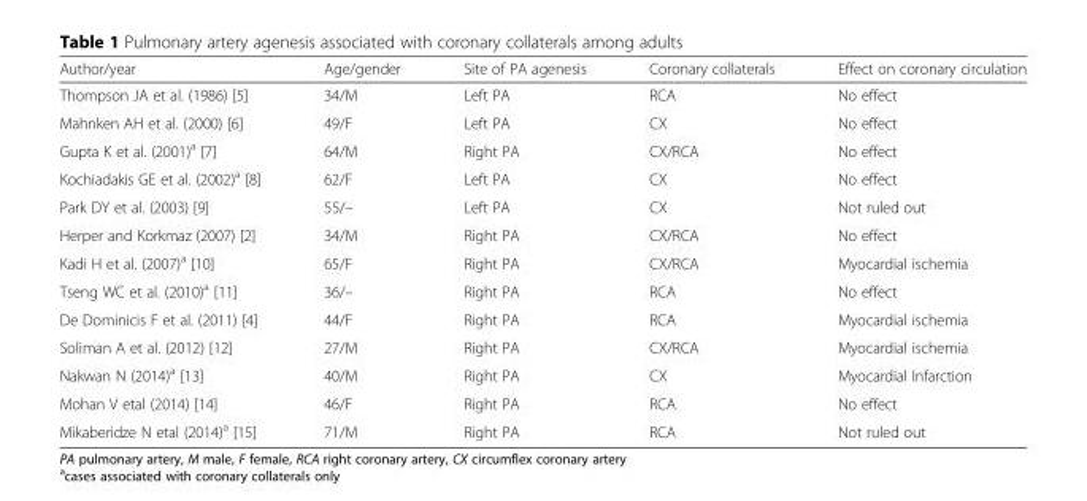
<table><thead><tr><td>Author/year</td><td>Age/gender</td><td>Site of PA agenesis</td><td>Coronary collaterals</td><td>Effect on coronary circulation</td></tr></thead><tbody><tr><td>Thompson JA et al. (1986) [5]</td><td>34/M</td><td>Left PA</td><td>RCA</td><td>No effect</td></tr><tr><td>Mahnken AH et al. (2000) [6]</td><td>49/F</td><td>Left PA</td><td>CX</td><td>No effect</td></tr><tr><td>Gupta K et al. (2001)<sup>a</sup> [7]</td><td>64/M</td><td>Right PA</td><td>CX/RCA</td><td>No effect</td></tr><tr><td>Kochiadakis GE et al. (2002)<sup>a</sup> [8]</td><td>62/F</td><td>Left PA</td><td>CX</td><td>No effect</td></tr><tr><td>Park DY et al. (2003) [9]</td><td>55/–</td><td>Left PA</td><td>CX</td><td>Not ruled out</td></tr><tr><td>Herper and Korkmaz (2007) [2]</td><td>34/M</td><td>Right PA</td><td>CX/RCA</td><td>No effect</td></tr><tr><td>Kadi H et al. (2007)<sup>a</sup> [10]</td><td>65/F</td><td>Right PA</td><td>CX/RCA</td><td>Myocardial ischemia</td></tr><tr><td>Tseng WC et al. (2010)<sup>a</sup> [11]</td><td>36/–</td><td>Right PA</td><td>RCA</td><td>No effect</td></tr><tr><td>De Dominicis F et al. (2011) [4]</td><td>44/F</td><td>Right PA</td><td>RCA</td><td>Myocardial ischemia</td></tr><tr><td>Soliman A et al. (2012) [12]</td><td>27/M</td><td>Right PA</td><td>CX/RCA</td><td>Myocardial ischemia</td></tr><tr><td>Nakwan N (2014)<sup>a</sup> [13]</td><td>40/M</td><td>Right PA</td><td>CX</td><td>Myocardial Infarction</td></tr><tr><td>Mohan V etal (2014) [14]</td><td>46/F</td><td>Right PA</td><td>RCA</td><td>No effect</td></tr><tr><td>Mikaberidze N etal (2014)<sup>a</sup> [15]</td><td>71/M</td><td>Right PA</td><td>RCA</td><td>Not ruled out</td></tr></tbody></table>